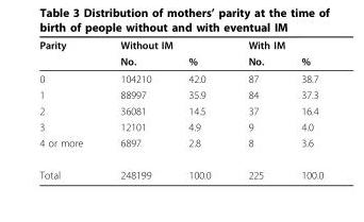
<table><thead><tr><td rowspan="2">Parity</td><td colspan="2">Without IM</td><td colspan="2">With IM</td></tr><tr><td>No.</td><td>%</td><td>No.</td><td>%</td></tr></thead><tbody><tr><td>0</td><td>104210</td><td>42.0</td><td>87</td><td>38.7</td></tr><tr><td>1</td><td>88997</td><td>35.9</td><td>84</td><td>37.3</td></tr><tr><td>2</td><td>36081</td><td>14.5</td><td>37</td><td>16.4</td></tr><tr><td>3</td><td>12101</td><td>4.9</td><td>9</td><td>4.0</td></tr><tr><td>4 or more</td><td>6897</td><td>2.8</td><td>8</td><td>3.6</td></tr><tr><td>Total</td><td>248199</td><td>100.0</td><td>225</td><td>100.0</td></tr></tbody></table>